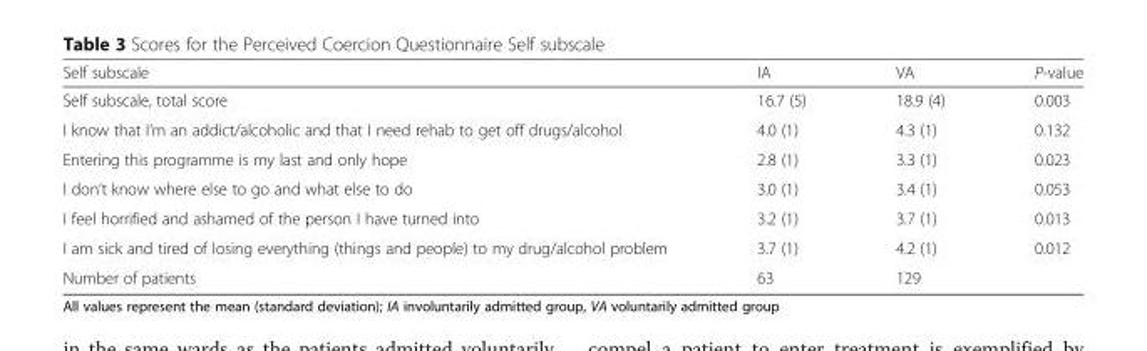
<table><thead><tr><td>Self subscale</td><td>IA</td><td>VA</td><td>P-value</td></tr></thead><tbody><tr><td>Self subscale, total score</td><td>16.7 (5)</td><td>18.9 (4)</td><td>0.003</td></tr><tr><td>I know that I’m an addict/alcoholic and that I need rehab to get off drugs/alcohol</td><td>4.0 (1)</td><td>4.3 (1)</td><td>0.132</td></tr><tr><td>Entering this programme is my last and only hope</td><td>2.8 (1)</td><td>3.3 (1)</td><td>0.023</td></tr><tr><td>I don’t know where else to go and what else to do</td><td>3.0 (1)</td><td>3.4 (1)</td><td>0.053</td></tr><tr><td>I feel horrified and ashamed of the person I have turned into</td><td>3.2 (1)</td><td>3.7 (1)</td><td>0.013</td></tr><tr><td>I am sick and tired of losing everything (things and people) to my drug/alcohol problem</td><td>3.7 (1)</td><td>4.2 (1)</td><td>0.012</td></tr><tr><td>Number of patients</td><td>63</td><td>129</td><td></td></tr></tbody></table>